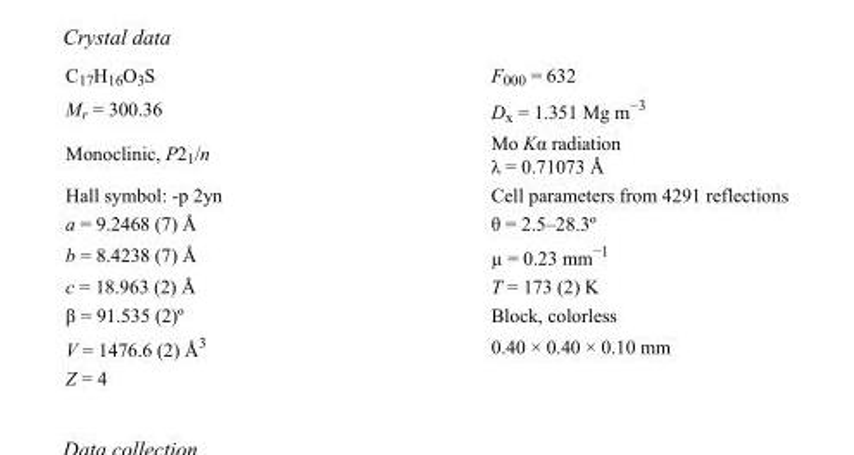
<table><tbody><tr><td>C<sub>17</sub>H<sub>16</sub>O<sub>3</sub>S</td><td>F<sub>000</sub> = 632</td></tr><tr><td>M<sub>r</sub> = 300.36</td><td>D<sub>x</sub> = 1.351 Mg m<sup>−3</sup></td></tr><tr><td>Monoclinic, P2<sub>1</sub>/n</td><td>Mo Kα radiation λ = 0.71073 Å</td></tr><tr><td>Hall symbol: -p 2yn</td><td>Cell parameters from 4291 reflections</td></tr><tr><td>a = 9.2468 (7) Å</td><td>θ = 2.5–28.3º</td></tr><tr><td>b = 8.4238 (7) Å</td><td>µ = 0.23 mm<sup>−1</sup></td></tr><tr><td>c = 18.963 (2) Å</td><td>T = 173 (2) K</td></tr><tr><td>β = 91.535 (2)º</td><td>Block, colorless</td></tr><tr><td>V = 1476.6 (2) Å<sup>3</sup></td><td>0.40 × 0.40 × 0.10 mm</td></tr><tr><td>Z = 4</td><td></td></tr></tbody></table>